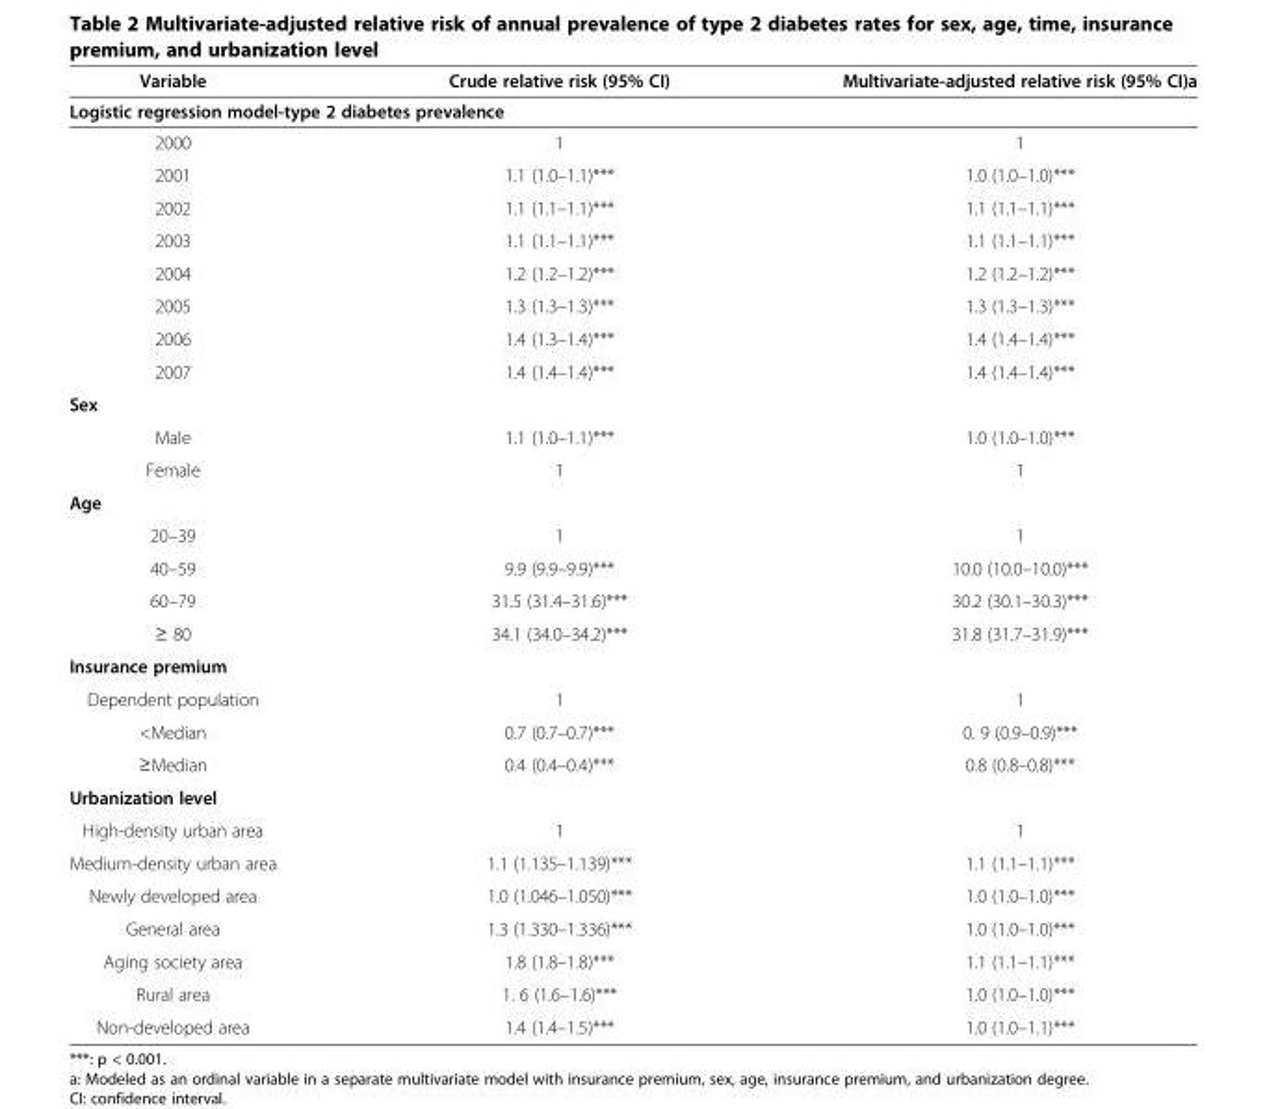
<table><thead><tr><td>Variable</td><td>Crude relative risk (95% CI)</td><td>Multivariate-adjusted relative risk (95% CI)a</td></tr></thead><tbody><tr><td colspan="3">Logistic regression model-type 2 diabetes prevalence</td></tr><tr><td>2000</td><td>1</td><td>1</td></tr><tr><td>2001</td><td>1.1 (1.0–1.1)***</td><td>1.0 (1.0–1.0)***</td></tr><tr><td>2002</td><td>1.1 (1.1–1.1)***</td><td>1.1 (1.1–1.1)***</td></tr><tr><td>2003</td><td>1.1 (1.1–1.1)***</td><td>1.1 (1.1–1.1)***</td></tr><tr><td>2004</td><td>1.2 (1.2–1.2)***</td><td>1.2 (1.2–1.2)***</td></tr><tr><td>2005</td><td>1.3 (1.3–1.3)***</td><td>1.3 (1.3–1.3)***</td></tr><tr><td>2006</td><td>1.4 (1.3–1.4)***</td><td>1.4 (1.4–1.4)***</td></tr><tr><td>2007</td><td>1.4 (1.4–1.4)***</td><td>1.4 (1.4–1.4)***</td></tr><tr><td colspan="3">Sex</td></tr><tr><td>Male</td><td>1.1 (1.0–1.1)***</td><td>1.0 (1.0–1.0)***</td></tr><tr><td>Female</td><td>1</td><td>1</td></tr><tr><td colspan="3">Age</td></tr><tr><td>20–39</td><td>1</td><td>1</td></tr><tr><td>40–59</td><td>9.9 (9.9–9.9)***</td><td>10.0 (10.0–10.0)***</td></tr><tr><td>60–79</td><td>31.5 (31.4–31.6)***</td><td>30.2 (30.1–30.3)***</td></tr><tr><td>≥ 80</td><td>34.1 (34.0–34.2)***</td><td>31.8 (31.7–31.9)***</td></tr><tr><td colspan="3">Insurance premium</td></tr><tr><td>Dependent population</td><td>1</td><td>1</td></tr><tr><td>&lt;Median</td><td>0.7 (0.7–0.7)***</td><td>0. 9 (0.9–0.9)***</td></tr><tr><td>≥Median</td><td>0.4 (0.4–0.4)***</td><td>0.8 (0.8–0.8)***</td></tr><tr><td colspan="3">Urbanization level</td></tr><tr><td>High-density urban area</td><td>1</td><td>1</td></tr><tr><td>Medium-density urban area</td><td>1.1 (1.135–1.139)***</td><td>1.1 (1.1–1.1)***</td></tr><tr><td>Newly developed area</td><td>1.0 (1.046–1.050)***</td><td>1.0 (1.0–1.0)***</td></tr><tr><td>General area</td><td>1.3 (1.330–1.336)***</td><td>1.0 (1.0–1.0)***</td></tr><tr><td>Aging society area</td><td>1.8 (1.8–1.8)***</td><td>1.1 (1.1–1.1)***</td></tr><tr><td>Rural area</td><td>1. 6 (1.6–1.6)***</td><td>1.0 (1.0–1.0)***</td></tr><tr><td>Non-developed area</td><td>1.4 (1.4–1.5)***</td><td>1.0 (1.0–1.1)***</td></tr></tbody></table>